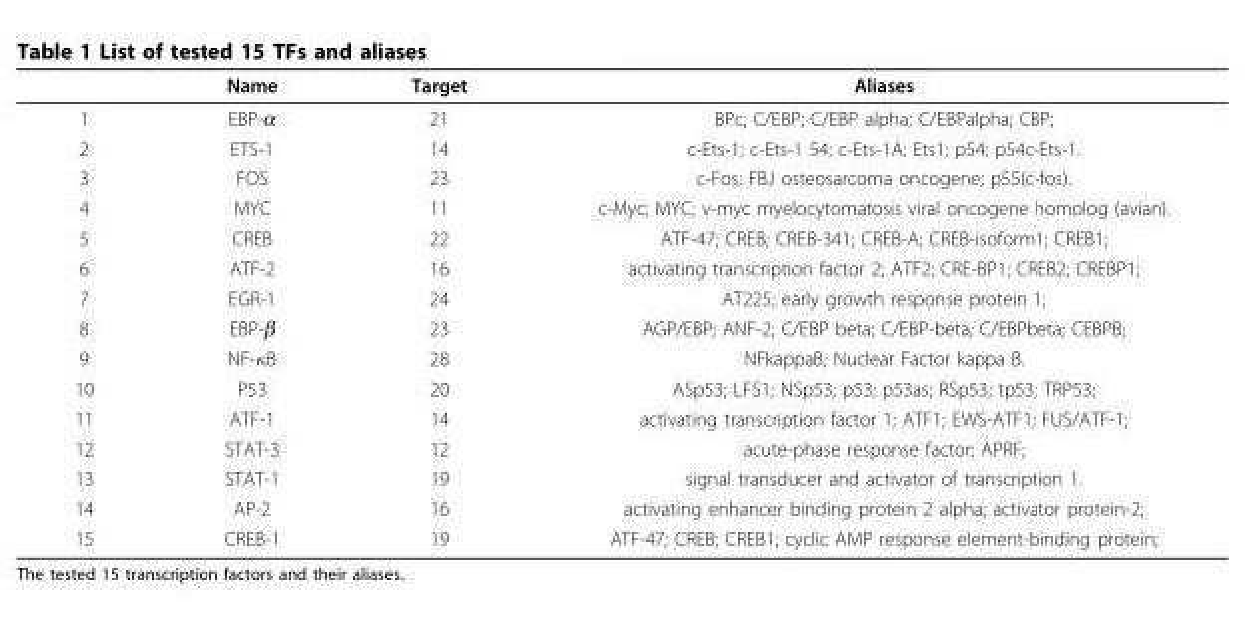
<table><thead><tr><td></td><td>Name</td><td>Target</td><td>Aliases</td></tr></thead><tbody><tr><td>1</td><td>EBP-α</td><td>21</td><td>BPc; C/EBP; C/EBP alpha; C/EBPalpha; CBP;</td></tr><tr><td>2</td><td>ETS-1</td><td>14</td><td>c-Ets-1; c-Ets-1 54; c-Ets-1A; Ets1; p54; p54c-Ets-1.</td></tr><tr><td>3</td><td>FOS</td><td>23</td><td>c-Fos; FBJ osteosarcoma oncogene; p55(c-fos).</td></tr><tr><td>4</td><td>MYC</td><td>11</td><td>c-Myc; MYC; v-myc myelocytomatosis viral oncogene homolog (avian).</td></tr><tr><td>5</td><td>CREB</td><td>22</td><td>ATF-47; CREB; CREB-341; CREB-A; CREB-isoform1; CREB1;</td></tr><tr><td>6</td><td>ATF-2</td><td>16</td><td>activating transcription factor 2; ATF2; CRE-BP1; CREB2; CREBP1;</td></tr><tr><td>7</td><td>EGR-1</td><td>24</td><td>AT225; early growth response protein 1;</td></tr><tr><td>8</td><td>EBP-β</td><td>23</td><td>AGP/EBP; ANF-2; C/EBP beta; C/EBP-beta; C/EBPbeta; CEBPB;</td></tr><tr><td>9</td><td>NF-κB</td><td>28</td><td>NFkappaB; Nuclear Factor kappa B.</td></tr><tr><td>10</td><td>P53</td><td>20</td><td>ASp53; LFS1; NSp53; p53; p53as; RSp53; tp53; TRP53;</td></tr><tr><td>11</td><td>ATF-1</td><td>14</td><td>activating transcription factor 1; ATF1; EWS-ATF1; FUS/ATF-1;</td></tr><tr><td>12</td><td>STAT-3</td><td>12</td><td>acute-phase response factor; APRF;</td></tr><tr><td>13</td><td>STAT-1</td><td>19</td><td>signal transducer and activator of transcription 1.</td></tr><tr><td>14</td><td>AP-2</td><td>16</td><td>activating enhancer binding protein 2 alpha; activator protein-2;</td></tr><tr><td>15</td><td>CREB-1</td><td>19</td><td>ATF-47; CREB; CREB1; cyclic AMP response element-binding protein;</td></tr></tbody></table>